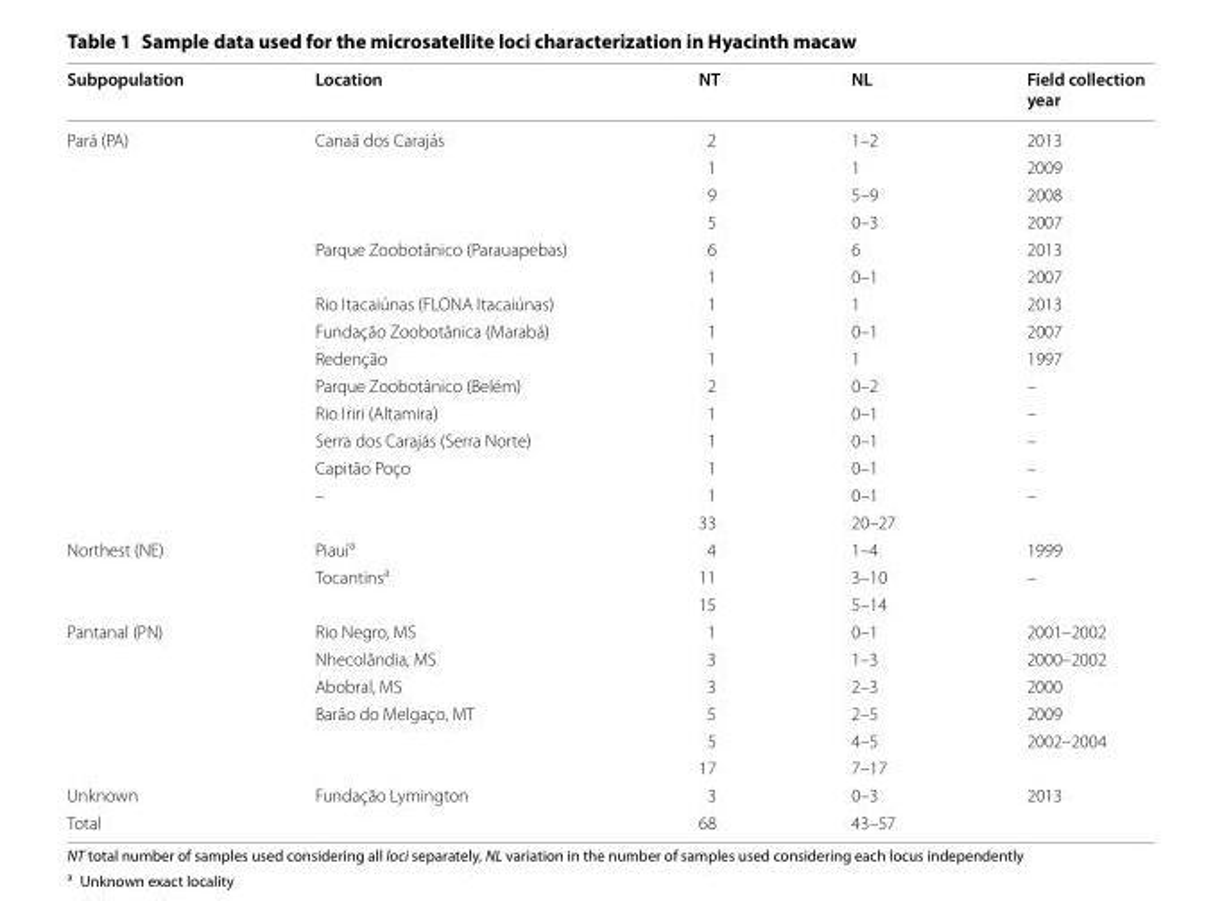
<table><thead><tr><td>Subpopulation</td><td>Location</td><td>NT</td><td>NL</td><td>Field collection year</td></tr></thead><tbody><tr><td rowspan="15">Pará (PA)</td><td rowspan="4">Canaã dos Carajás</td><td>2</td><td>1–2</td><td>2013</td></tr><tr><td>1</td><td>1</td><td>2009</td></tr><tr><td>9</td><td>5–9</td><td>2008</td></tr><tr><td>5</td><td>0–3</td><td>2007</td></tr><tr><td rowspan="2">Parque Zoobotânico (Parauapebas)</td><td>6</td><td>6</td><td>2013</td></tr><tr><td>1</td><td>0–1</td><td>2007</td></tr><tr><td>Rio Itacaiúnas (FLONA Itacaiúnas)</td><td>1</td><td>1</td><td>2013</td></tr><tr><td>Fundação Zoobotânica (Marabá)</td><td>1</td><td>0–1</td><td>2007</td></tr><tr><td>Redenção</td><td>1</td><td>1</td><td>1997</td></tr><tr><td>Parque Zoobotânico (Belém)</td><td>2</td><td>0–2</td><td>–</td></tr><tr><td>Rio Iriri (Altamira)</td><td>1</td><td>0–1</td><td>–</td></tr><tr><td>Serra dos Carajás (Serra Norte)</td><td>1</td><td>0–1</td><td>–</td></tr><tr><td>Capitão Poço</td><td>1</td><td>0–1</td><td>–</td></tr><tr><td>–</td><td>1</td><td>0–1</td><td>–</td></tr><tr><td></td><td>33</td><td>20–27</td><td></td></tr><tr><td rowspan="3">Northest (NE)</td><td>Piauí<sup>a</sup></td><td>4</td><td>1–4</td><td>1999</td></tr><tr><td>Tocantins<sup>a</sup></td><td>11</td><td>3–10</td><td>–</td></tr><tr><td></td><td>15</td><td>5–14</td><td></td></tr><tr><td rowspan="6">Pantanal (PN)</td><td>Rio Negro, MS</td><td>1</td><td>0–1</td><td>2001–2002</td></tr><tr><td>Nhecolândia, MS</td><td>3</td><td>1–3</td><td>2000–2002</td></tr><tr><td>Abobral, MS</td><td>3</td><td>2–3</td><td>2000</td></tr><tr><td>Barão do Melgaço, MT</td><td>5</td><td>2–5</td><td>2009</td></tr><tr><td></td><td>5</td><td>4–5</td><td>2002–2004</td></tr><tr><td></td><td>17</td><td>7–17</td><td></td></tr><tr><td>Unknown</td><td>Fundação Lymington</td><td>3</td><td>0–3</td><td>2013</td></tr><tr><td>Total</td><td></td><td>68</td><td>43–57</td><td></td></tr></tbody></table>